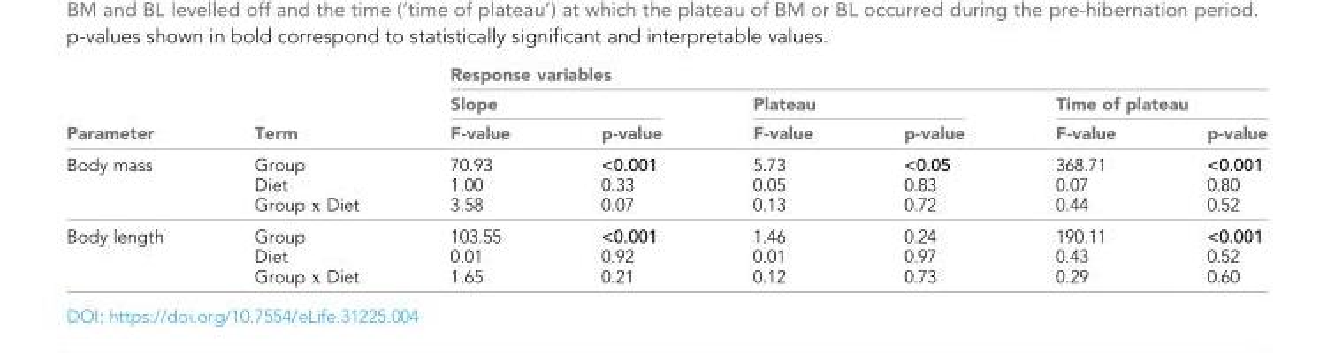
<table><thead><tr><td rowspan="3">Parameter</td><td rowspan="3">Term</td><td colspan="6">Response variables</td></tr><tr><td colspan="2">Slope</td><td colspan="2">Plateau</td><td colspan="2">Time of plateau</td></tr><tr><td>F-value</td><td>p-value</td><td>F-value</td><td>p-value</td><td>F-value</td><td>p-value</td></tr></thead><tbody><tr><td>Body mass</td><td>Group Diet Group х Diet</td><td>70.93 1.00 3.58</td><td>&lt;0.001 0.33 0.07</td><td>5.73 0.05 0.13</td><td>&lt;0.05 0.83 0.72</td><td>368.71 0.07 0.44</td><td>&lt;0.001 0.80 0.52</td></tr><tr><td>Body length</td><td>Group Diet Group х Diet</td><td>103.55 0.01 1.65</td><td>&lt;0.001 0.92 0.21</td><td>1.46 0.01 0.12</td><td>0.24 0.97 0.73</td><td>190.11 0.43 0.29</td><td>&lt;0.001 0.52 0.60</td></tr></tbody></table>